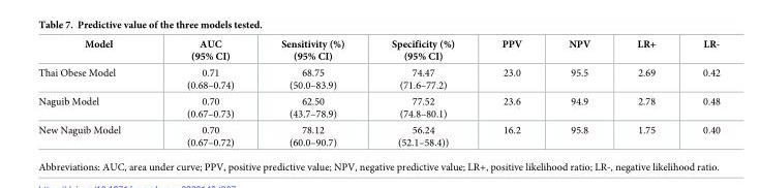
<table><thead><tr><td>Model</td><td>AUC (95% CI)</td><td>Sensitivity (%) (95% CI)</td><td>Specificity (%) (95% CI)</td><td>PPV</td><td>NPV</td><td>LR+</td><td>LR-</td></tr></thead><tbody><tr><td>Thai Obese Model</td><td>0.71 (0.68–0.74)</td><td>68.75 (50.0–83.9)</td><td>74.47 (71.6–77.2)</td><td>23.0</td><td>95.5</td><td>2.69</td><td>0.42</td></tr><tr><td>Naguib Model</td><td>0.70 (0.67–0.73)</td><td>62.50 (43.7–78.9)</td><td>77.52 (74.8–80.1)</td><td>23.6</td><td>94.9</td><td>2.78</td><td>0.48</td></tr><tr><td>New Naguib Model</td><td>0.70 (0.67–0.72)</td><td>78.12 (60.0–90.7)</td><td>56.24 (52.1–58.4))</td><td>16.2</td><td>95.8</td><td>1.75</td><td>0.40</td></tr></tbody></table>